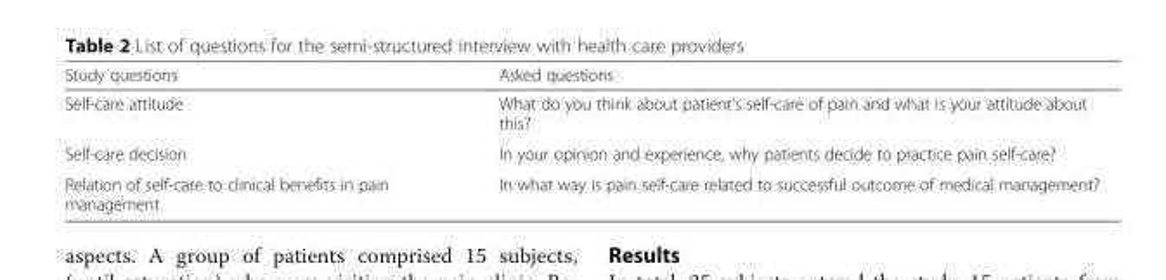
<table><thead><tr><td>Study questions</td><td>Asked questions</td></tr></thead><tbody><tr><td>Self-care attitude</td><td>What do you think about patient’s self-care of pain and what is your attitude about this?</td></tr><tr><td>Self-care decision</td><td>In your opinion and experience, why patients decide to practice pain self-care?</td></tr><tr><td>Relation of self-care to clinical benefits in pain management</td><td>In what way is pain self-care related to successful outcome of medical management?</td></tr></tbody></table>